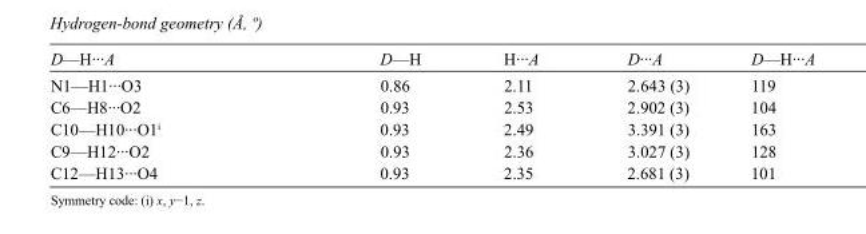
<table><tbody><tr><td>D—H···A</td><td>D—H</td><td>H···A</td><td>D···A</td><td>D—H···A</td></tr><tr><td>N1—H1···O3</td><td>0.86</td><td>2.11</td><td>2.643 (3)</td><td>119</td></tr><tr><td>C6—H8···O2</td><td>0.93</td><td>2.53</td><td>2.902 (3)</td><td>104</td></tr><tr><td>C10—H10···O1<sup>i</sup></td><td>0.93</td><td>2.49</td><td>3.391 (3)</td><td>163</td></tr><tr><td>C9—H12···O2</td><td>0.93</td><td>2.36</td><td>3.027 (3)</td><td>128</td></tr><tr><td>C12—H13···O4</td><td>0.93</td><td>2.35</td><td>2.681 (3)</td><td>101</td></tr></tbody></table>